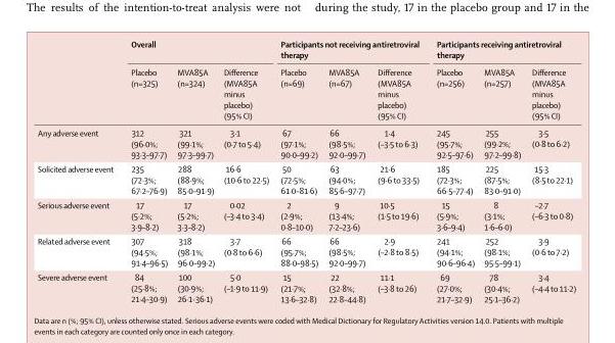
<table><thead><tr><td rowspan="2"></td><td colspan="3">Overall</td><td colspan="3">Participants not receiving antiretroviral therapy</td><td colspan="3">Participants receiving antiretroviral therapy</td></tr><tr><td>Placebo (n=325)</td><td>MVA85A (n=324)</td><td>Diff erence (MVA85A minus placebo) (95% CI)</td><td>Placebo (n=69)</td><td>MVA85A (n=67)</td><td>Diff erence (MVA85A minus placebo) (95% CI)</td><td>Placebo (n=256)</td><td>MVA85A (n=257)</td><td>Diff erence (MVA85A minus placebo) (95% CI)</td></tr></thead><tbody><tr><td>Any adverse event</td><td>312 (96·0%; 93·3–97·7)</td><td>321 (99·1%; 97·3–99·7)</td><td>3·1 (0·7 to 5·4)</td><td>67 (97·1%; 90·0–99·2)</td><td>66 (98·5%; 92·0–99·7)</td><td>1·4 (–3·5 to 6·3)</td><td>245 (95·7%; 92·5–97·6)</td><td>255 (99·2%; 97·2–99·8)</td><td>3·5 (0·8 to 6·2)</td></tr><tr><td>Solicited adverse event</td><td>235 (72·3%; 67·2–76·9)</td><td>288 (88·9%; 85·0–91·9)</td><td>16·6 (10·6 to 22·5)</td><td>50 (72·5%; 61·0–81·6)</td><td>63 (94·0%; 85·6–97·7)</td><td>21·6 (9·6 to 33·5)</td><td>185 (72·3%; 66·5–77·4)</td><td>225 (87·5%; 83·0–91·0)</td><td>15·3 (8·5 to 22·1)</td></tr><tr><td>Serious adverse event</td><td>17 (5·2%; 3·9–8·2)</td><td>17 (5·2%; 3·3–8·2)</td><td>0·02 (–3·4 to 3·4)</td><td>2 (2·9%; 0·8–10·0)</td><td>9 (13·4%; 7·2–23·6)</td><td>10·5 (1·5 to 19·6)</td><td>15 (5·9%; 3·6–9·4)</td><td>8 (3·1%; 1·6–6·0)</td><td>–2·7 (–6·3 to 0·8)</td></tr><tr><td>Related adverse event</td><td>307 (94·5%; 91·4–96·5)</td><td>318 (98·1%; 96·0–99·2)</td><td>3·7 (0·8 to 6·6)</td><td>66 (95·7%; 88·0–98·5)</td><td>66 (98·5%; 92·0–99·7)</td><td>2·9 (–2·8 to 8·5)</td><td>241 (94·1%; 90·6–96·4)</td><td>252 (98·1%; 95·5–99·1)</td><td>3·9 (0·6 to 7·2)</td></tr><tr><td>Severe adverse event</td><td>84 (25·8%; 21·4–30·9)</td><td>100 (30·9%; 26·1-36·1)</td><td>5·0 (–1·9 to 11·9)</td><td>15 (21·7%; 13·6–32·8)</td><td>22 (32·8%; 22·8–44·8)</td><td>11·1 (–3·8 to 26)</td><td>69 (27·0%; 21·7–32·9)</td><td>78 (30·4%; 25·1–36·2)</td><td>3·4 (–4·4 to 11·2)</td></tr></tbody></table>